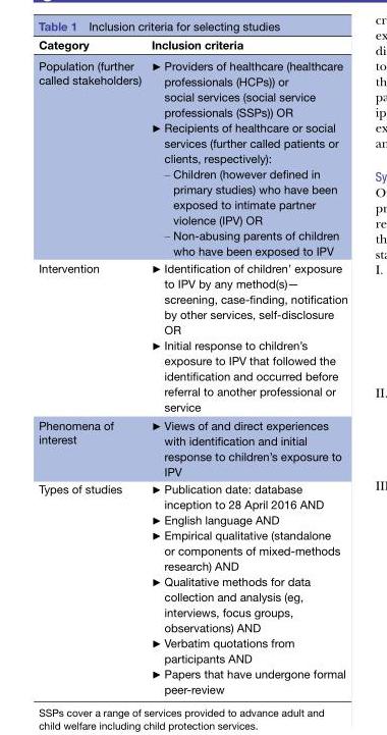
<table><thead><tr><td>Category</td><td>Inclusion criteria</td></tr></thead><tbody><tr><td>Population (further called stakeholders)</td><td>► Providers of healthcare (healthcare professionals (HCPs)) or social services (social service professionals (SSPs)) OR ► Recipients of healthcare or social services (further called patients or clients, respectively): – Children (however defined in primary studies) who have been exposed to intimate partner violence (IPV) OR – Non-abusing parents of children who have been exposed to IPV</td></tr><tr><td>Intervention</td><td>► Identification of children’ exposure to IPV by any method(s)— screening, case-finding, notification by other services, self-disclosure OR ► Initial response to children’s exposure to IPV that followed the identification and occurred before referral to another professional or service</td></tr><tr><td>Phenomena of interest</td><td>► Views of and direct experiences with identification and initial response to children’s exposure to IPV</td></tr><tr><td>Types of studies</td><td>► Publication date: database inception to 28 April 2016 AND ► English language AND ► Empirical qualitative (standalone or components of mixed-methods research) AND ► Qualitative methods for data collection and analysis (eg, interviews, focus groups, observations) AND ► Verbatim quotations from participants AND ► Papers that have undergone formal peer-review</td></tr></tbody></table>